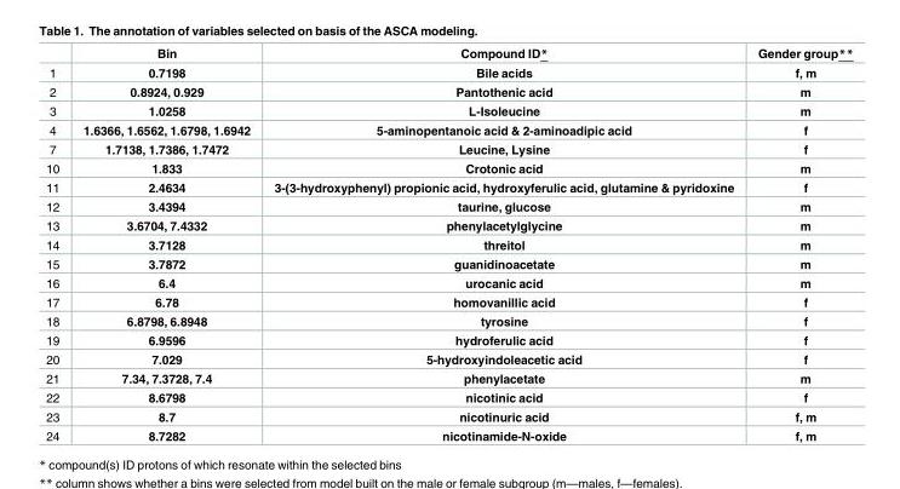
<table><thead><tr><td></td><td>Bin</td><td>Compound ID*</td><td>Gender group**</td></tr></thead><tbody><tr><td>1</td><td>0.7198</td><td>Bile acids</td><td>f, m</td></tr><tr><td>2</td><td>0.8924, 0.929</td><td>Pantothenic acid</td><td>m</td></tr><tr><td>3</td><td>1.0258</td><td>L-Isoleucine</td><td>m</td></tr><tr><td>4</td><td>1.6366, 1.6562, 1.6798, 1.6942</td><td>5-aminopentanoic acid &amp; 2-aminoadipic acid</td><td>f</td></tr><tr><td>7</td><td>1.7138, 1.7386, 1.7472</td><td>Leucine, Lysine</td><td>f</td></tr><tr><td>10</td><td>1.833</td><td>Crotonic acid</td><td>m</td></tr><tr><td>11</td><td>2.4634</td><td>3-(3-hydroxyphenyl) propionic acid, hydroxyferulic acid, glutamine &amp; pyridoxine</td><td>f</td></tr><tr><td>12</td><td>3.4394</td><td>taurine, glucose</td><td>m</td></tr><tr><td>13</td><td>3.6704, 7.4332</td><td>phenylacetylglycine</td><td>m</td></tr><tr><td>14</td><td>3.7128</td><td>threitol</td><td>m</td></tr><tr><td>15</td><td>3.7872</td><td>guanidinoacetate</td><td>m</td></tr><tr><td>16</td><td>6.4</td><td>urocanic acid</td><td>m</td></tr><tr><td>17</td><td>6.78</td><td>homovanillic acid</td><td>f</td></tr><tr><td>18</td><td>6.8798, 6.8948</td><td>tyrosine</td><td>f</td></tr><tr><td>19</td><td>6.9596</td><td>hydroferulic acid</td><td>f</td></tr><tr><td>20</td><td>7.029</td><td>5-hydroxyindoleacetic acid</td><td>f</td></tr><tr><td>21</td><td>7.34, 7.3728, 7.4</td><td>phenylacetate</td><td>m</td></tr><tr><td>22</td><td>8.6798</td><td>nicotinic acid</td><td>f</td></tr><tr><td>23</td><td>8.7</td><td>nicotinuric acid</td><td>f, m</td></tr><tr><td>24</td><td>8.7282</td><td>nicotinamide-N-oxide</td><td>f, m</td></tr></tbody></table>